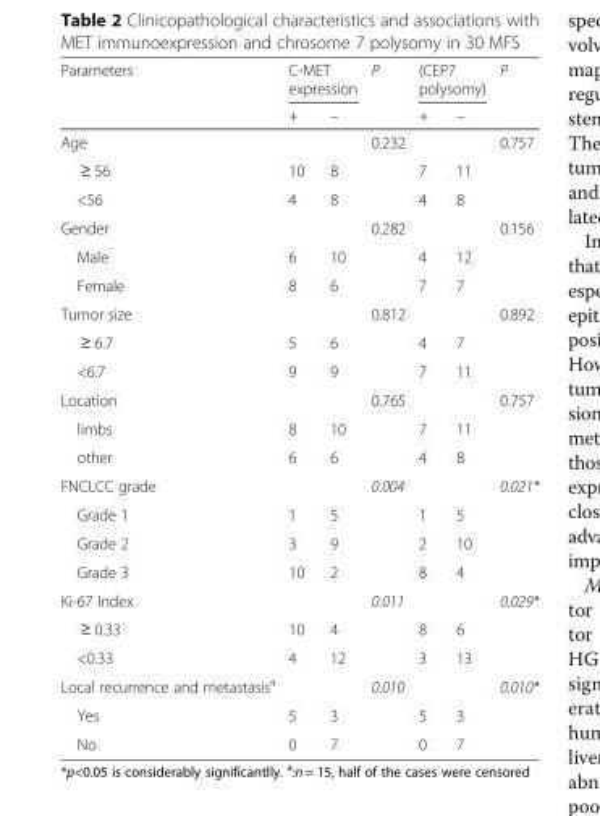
<table><thead><tr><td rowspan="2">Parameters</td><td colspan="2">C-MET expression</td><td rowspan="2">P</td><td colspan="2">(CEP7 polysomy)</td><td rowspan="2">P</td></tr><tr><td>+</td><td>–</td><td>+</td><td>–</td></tr></thead><tbody><tr><td>Age</td><td></td><td></td><td>0.232</td><td></td><td></td><td>0.757</td></tr><tr><td>≥ 56</td><td>10</td><td>8</td><td></td><td>7</td><td>11</td><td></td></tr><tr><td>&lt;56</td><td>4</td><td>8</td><td></td><td>4</td><td>8</td><td></td></tr><tr><td>Gender</td><td></td><td></td><td>0.282</td><td></td><td></td><td>0.156</td></tr><tr><td>Male</td><td>6</td><td>10</td><td></td><td>4</td><td>12</td><td></td></tr><tr><td>Female</td><td>8</td><td>6</td><td></td><td>7</td><td>7</td><td></td></tr><tr><td>Tumor size</td><td></td><td></td><td>0.812</td><td></td><td></td><td>0.892</td></tr><tr><td>≥ 6.7</td><td>5</td><td>6</td><td></td><td>4</td><td>7</td><td></td></tr><tr><td>&lt;6.7</td><td>9</td><td>9</td><td></td><td>7</td><td>11</td><td></td></tr><tr><td>Location</td><td></td><td></td><td>0.765</td><td></td><td></td><td>0.757</td></tr><tr><td>limbs</td><td>8</td><td>10</td><td></td><td>7</td><td>11</td><td></td></tr><tr><td>other</td><td>6</td><td>6</td><td></td><td>4</td><td>8</td><td></td></tr><tr><td>FNCLCC grade</td><td></td><td></td><td>0.004</td><td></td><td></td><td>0.021*</td></tr><tr><td>Grade 1</td><td>1</td><td>5</td><td></td><td>1</td><td>5</td><td></td></tr><tr><td>Grade 2</td><td>3</td><td>9</td><td></td><td>2</td><td>10</td><td></td></tr><tr><td>Grade 3</td><td>10</td><td>2</td><td></td><td>8</td><td>4</td><td></td></tr><tr><td>Ki-67 Index</td><td></td><td></td><td>0.011</td><td></td><td></td><td>0.029*</td></tr><tr><td>≥ 0.33</td><td>10</td><td>4</td><td></td><td>8</td><td>6</td><td></td></tr><tr><td>&lt;0.33</td><td>4</td><td>12</td><td></td><td>3</td><td>13</td><td></td></tr><tr><td>Local recurrence and metastasis<sup>a</sup></td><td></td><td></td><td>0.010</td><td></td><td></td><td>0.010*</td></tr><tr><td>Yes</td><td>5</td><td>3</td><td></td><td>5</td><td>3</td><td></td></tr><tr><td>No</td><td>0</td><td>7</td><td></td><td>0</td><td>7</td><td></td></tr></tbody></table>